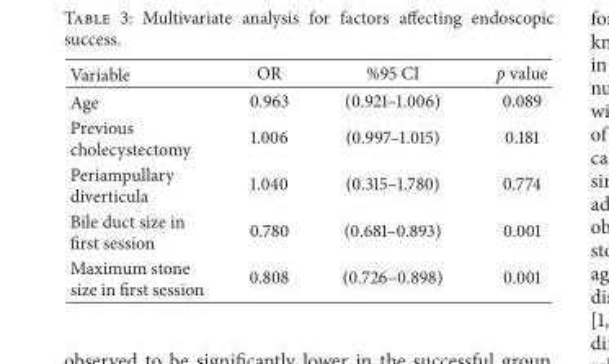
<table><thead><tr><td>Variable</td><td>OR</td><td>%95 CI</td><td>p value</td></tr></thead><tbody><tr><td>Age</td><td>0.963</td><td>(0.921–1.006)</td><td>0.089</td></tr><tr><td>Previous cholecystectomy</td><td>1.006</td><td>(0.997–1.015)</td><td>0.181</td></tr><tr><td>Periampullary diverticula</td><td>1.040</td><td>(0.315–1.780)</td><td>0.774</td></tr><tr><td>Bile duct size in first session</td><td>0.780</td><td>(0.681–0.893)</td><td>0.001</td></tr><tr><td>Maximum stone size in first session</td><td>0.808</td><td>(0.726–0.898)</td><td>0.001</td></tr></tbody></table>